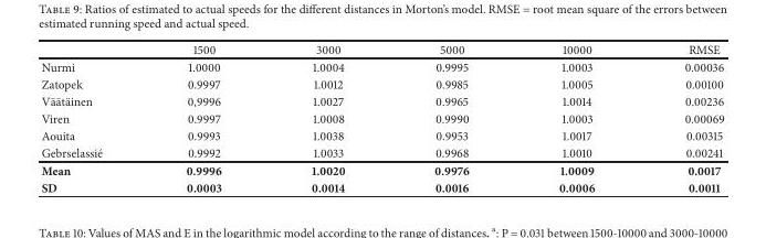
<table><thead><tr><td></td><td>1500</td><td>3000</td><td>5000</td><td>10000</td><td>RMSE</td></tr></thead><tbody><tr><td>Nurmi</td><td>1.0000</td><td>1.0004</td><td>0.9995</td><td>1.0003</td><td>0.00036</td></tr><tr><td>Zatopek</td><td>0.9997</td><td>1.0012</td><td>0.9985</td><td>1.0005</td><td>0.00100</td></tr><tr><td>V¨a¨at¨ainen</td><td>0,9996</td><td>1.0027</td><td>0.9965</td><td>1.0014</td><td>0.00236</td></tr><tr><td>Viren</td><td>0.9997</td><td>1.0008</td><td>0.9990</td><td>1.0003</td><td>0.00069</td></tr><tr><td>Aouita</td><td>0.9993</td><td>1.0038</td><td>0.9953</td><td>1.0017</td><td>0.00315</td></tr><tr><td>Gebrselassi´e</td><td>0.9992</td><td>1.0033</td><td>0.9968</td><td>1.0010</td><td>0.00241</td></tr><tr><td>Mean</td><td>0.9996</td><td>1.0020</td><td>0.9976</td><td>1.0009</td><td>0.0017</td></tr><tr><td>SD</td><td>0.0003</td><td>0.0014</td><td>0.0016</td><td>0.0006</td><td>0.0011</td></tr></tbody></table>